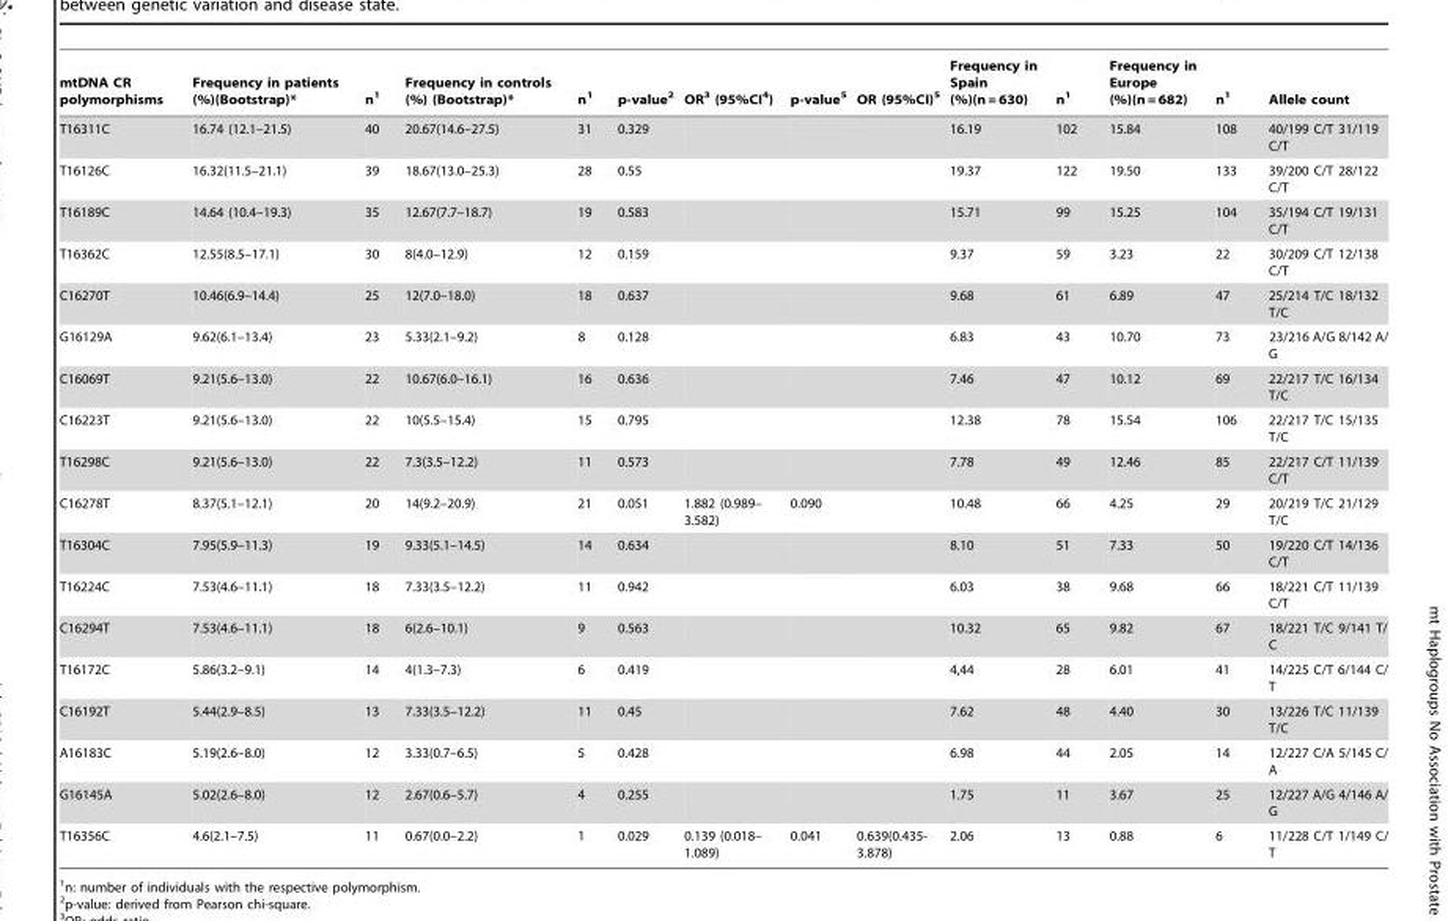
<table><thead><tr><td>mtDNA CR polymorphisms</td><td>Frequency in patients (%)(Bootstrap)*</td><td>n<sup>1</sup></td><td>Frequency in controls (%) (Bootstrap)*</td><td>n<sup>1</sup></td><td>p-value<sup>2</sup></td><td>OR<sup>3</sup> (95%CI<sup>4</sup>)</td><td>p-value<sup>5</sup></td><td>OR (95%CI)<sup>5</sup></td><td>Frequency in Spain (%)(n = 630)</td><td>n<sup>1</sup></td><td>Frequency in Europe (%)(n = 682)</td><td>n<sup>1</sup></td><td>Allele count</td></tr></thead><tbody><tr><td>T16311C</td><td>16.74 (12.1–21.5)</td><td>40</td><td>20.67(14.6–27.5)</td><td>31</td><td>0.329</td><td></td><td></td><td></td><td>16.19</td><td>102</td><td>15.84</td><td>108</td><td>40/199 C/T 31/119 C/T</td></tr><tr><td>T16126C</td><td>16.32(11.5–21.1)</td><td>39</td><td>18.67(13.0–25.3)</td><td>28</td><td>0.55</td><td></td><td></td><td></td><td>19.37</td><td>122</td><td>19.50</td><td>133</td><td>39/200 C/T 28/122 C/T</td></tr><tr><td>T16189C</td><td>14.64 (10.4–19.3)</td><td>35</td><td>12.67(7.7–18.7)</td><td>19</td><td>0.583</td><td></td><td></td><td></td><td>15.71</td><td>99</td><td>15.25</td><td>104</td><td>35/194 C/T 19/131 C/T</td></tr><tr><td>T16362C</td><td>12.55(8.5–17.1)</td><td>30</td><td>8(4.0–12.9)</td><td>12</td><td>0.159</td><td></td><td></td><td></td><td>9.37</td><td>59</td><td>3.23</td><td>22</td><td>30/209 C/T 12/138 C/T</td></tr><tr><td>C16270T</td><td>10.46(6.9–14.4)</td><td>25</td><td>12(7.0–18.0)</td><td>18</td><td>0.637</td><td></td><td></td><td></td><td>9.68</td><td>61</td><td>6.89</td><td>47</td><td>25/214 T/C 18/132 T/C</td></tr><tr><td>G16129A</td><td>9.62(6.1–13.4)</td><td>23</td><td>5.33(2.1–9.2)</td><td>8</td><td>0.128</td><td></td><td></td><td></td><td>6.83</td><td>43</td><td>10.70</td><td>73</td><td>23/216 A/G 8/142 A/ G</td></tr><tr><td>C16069T</td><td>9.21(5.6–13.0)</td><td>22</td><td>10.67(6.0–16.1)</td><td>16</td><td>0.636</td><td></td><td></td><td></td><td>7.46</td><td>47</td><td>10.12</td><td>69</td><td>22/217 T/C 16/134 T/C</td></tr><tr><td>C16223T</td><td>9.21(5.6–13.0)</td><td>22</td><td>10(5.5–15.4)</td><td>15</td><td>0.795</td><td></td><td></td><td></td><td>12.38</td><td>78</td><td>15.54</td><td>106</td><td>22/217 T/C 15/135 T/C</td></tr><tr><td>T16298C</td><td>9.21(5.6–13.0)</td><td>22</td><td>7.3(3.5–12.2)</td><td>11</td><td>0.573</td><td></td><td></td><td></td><td>7.78</td><td>49</td><td>12.46</td><td>85</td><td>22/217 C/T 11/139 C/T</td></tr><tr><td>C16278T</td><td>8.37(5.1–12.1)</td><td>20</td><td>14(9.2–20.9)</td><td>21</td><td>0.051</td><td>1.882 (0.989– 3.582)</td><td>0.090</td><td></td><td>10.48</td><td>66</td><td>4.25</td><td>29</td><td>20/219 T/C 21/129 T/C</td></tr><tr><td>T16304C</td><td>7.95(5.9–11.3)</td><td>19</td><td>9.33(5.1–14.5)</td><td>14</td><td>0.634</td><td></td><td></td><td></td><td>8.10</td><td>51</td><td>7.33</td><td>50</td><td>19/220 C/T 14/136 C/T</td></tr><tr><td>T16224C</td><td>7.53(4.6–11.1)</td><td>18</td><td>7.33(3.5–12.2)</td><td>11</td><td>0.942</td><td></td><td></td><td></td><td>6.03</td><td>38</td><td>9.68</td><td>66</td><td>18/221 C/T 11/139 C/T</td></tr><tr><td>C16294T</td><td>7.53(4.6–11.1)</td><td>18</td><td>6(2.6–10.1)</td><td>9</td><td>0.563</td><td></td><td></td><td></td><td>10.32</td><td>65</td><td>9.82</td><td>67</td><td>18/221 T/C 9/141 T/ C</td></tr><tr><td>T16172C</td><td>5.86(3.2–9.1)</td><td>14</td><td>4(1.3–7.3)</td><td>6</td><td>0.419</td><td></td><td></td><td></td><td>4,44</td><td>28</td><td>6.01</td><td>41</td><td>14/225 C/T 6/144 C/ T</td></tr><tr><td>C16192T</td><td>5.44(2.9–8.5)</td><td>13</td><td>7.33(3.5–12.2)</td><td>11</td><td>0.45</td><td></td><td></td><td></td><td>7.62</td><td>48</td><td>4.40</td><td>30</td><td>13/226 T/C 11/139 T/C</td></tr><tr><td>A16183C</td><td>5.19(2.6–8.0)</td><td>12</td><td>3.33(0.7–6.5)</td><td>5</td><td>0.428</td><td></td><td></td><td></td><td>6.98</td><td>44</td><td>2.05</td><td>14</td><td>12/227 C/A 5/145 C/ A</td></tr><tr><td>G16145A</td><td>5.02(2.6–8.0)</td><td>12</td><td>2.67(0.6–5.7)</td><td>4</td><td>0.255</td><td></td><td></td><td></td><td>1.75</td><td>11</td><td>3.67</td><td>25</td><td>12/227 A/G 4/146 A/ G</td></tr><tr><td>T16356C</td><td>4.6(2.1–7.5)</td><td>11</td><td>0.67(0.0–2.2)</td><td>1</td><td>0.029</td><td>0.139 (0.018– 1.089)</td><td>0.041</td><td>0.639(0.435- 3.878)</td><td>2.06</td><td>13</td><td>0.88</td><td>6</td><td>11/228 C/T 1/149 C/ T</td></tr></tbody></table>